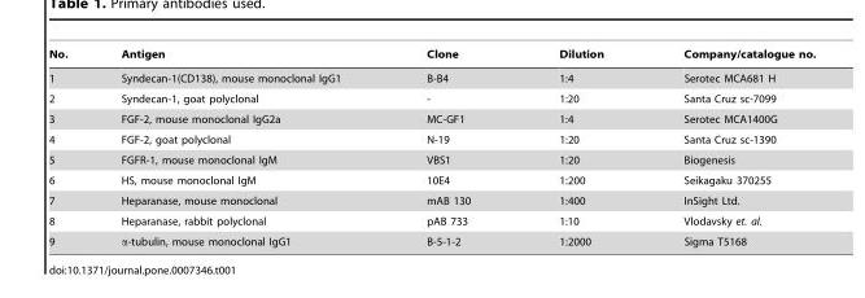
<table><thead><tr><td>No.</td><td>Antigen</td><td>Clone</td><td>Dilution</td><td>Company/catalogue no.</td></tr></thead><tbody><tr><td>1</td><td>Syndecan-1(CD138), mouse monoclonal IgG1</td><td>B-B4</td><td>1:4</td><td>Serotec MCA681 H</td></tr><tr><td>2</td><td>Syndecan-1, goat polyclonal</td><td>-</td><td>1:20</td><td>Santa Cruz sc-7099</td></tr><tr><td>3</td><td>FGF-2, mouse monoclonal IgG2a</td><td>MC-GF1</td><td>1:4</td><td>Serotec MCA1400G</td></tr><tr><td>4</td><td>FGF-2, goat polyclonal</td><td>N-19</td><td>1:20</td><td>Santa Cruz sc-1390</td></tr><tr><td>5</td><td>FGFR-1, mouse monoclonal IgM</td><td>VBS1</td><td>1:20</td><td>Biogenesis</td></tr><tr><td>6</td><td>HS, mouse monoclonal IgM</td><td>10E4</td><td>1:200</td><td>Seikagaku 370255</td></tr><tr><td>7</td><td>Heparanase, mouse monoclonal</td><td>mAB 130</td><td>1:400</td><td>InSight Ltd.</td></tr><tr><td>8</td><td>Heparanase, rabbit polyclonal</td><td>pAB 733</td><td>1:10</td><td>Vlodavsky et. al.</td></tr><tr><td>9</td><td>α-tubulin, mouse monoclonal IgG1</td><td>B-5-1-2</td><td>1:2000</td><td>Sigma T5168</td></tr></tbody></table>